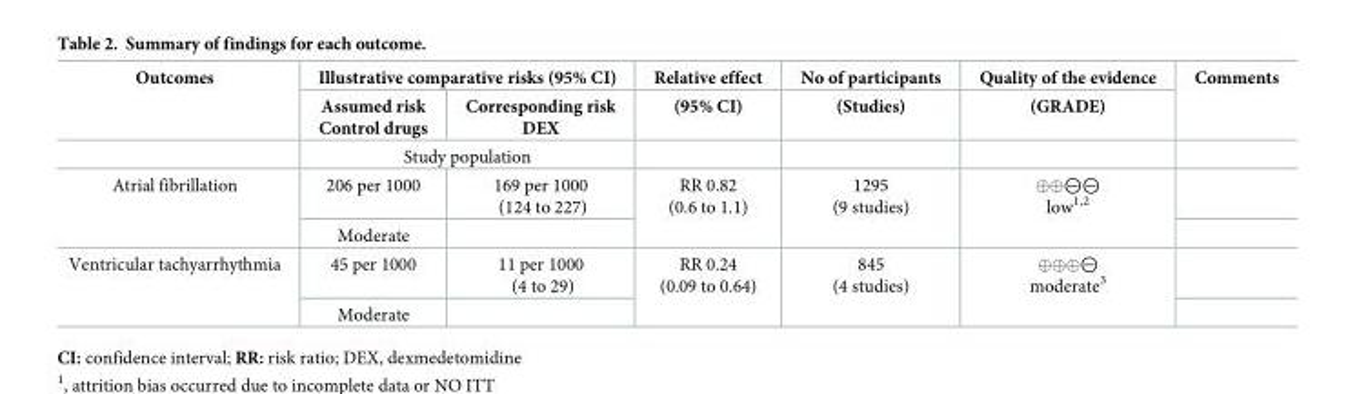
<table><thead><tr><td rowspan="2">Outcomes</td><td colspan="2">Illustrative comparative risks (95% CI)</td><td rowspan="2">Relative effect (95% CI)</td><td rowspan="2">No of participants (Studies)</td><td rowspan="2">Quality of the evidence (GRADE)</td><td rowspan="2">Comments</td></tr><tr><td>Assumed risk Control drugs</td><td>Corresponding risk DEX</td></tr></thead><tbody><tr><td></td><td colspan="2">Study population</td><td></td><td></td><td></td><td></td></tr><tr><td rowspan="2">Atrial fibrillation</td><td>206 per 1000</td><td>169 per 1000 (124 to 227)</td><td rowspan="2">RR 0.82 (0.6 to 1.1)</td><td rowspan="2">1295 (9 studies)</td><td rowspan="2">⊕⊕⊝⊝ low<sup>1,2</sup></td><td></td></tr><tr><td>Moderate</td><td></td><td></td></tr><tr><td rowspan="2">Ventricular tachyarrhythmia</td><td>45 per 1000</td><td>11 per 1000 (4 to 29)</td><td rowspan="2">RR 0.24 (0.09 to 0.64)</td><td rowspan="2">845 (4 studies)</td><td rowspan="2">⊕⊕⊕⊝ moderate<sup>3</sup></td><td></td></tr><tr><td>Moderate</td><td></td><td></td></tr></tbody></table>